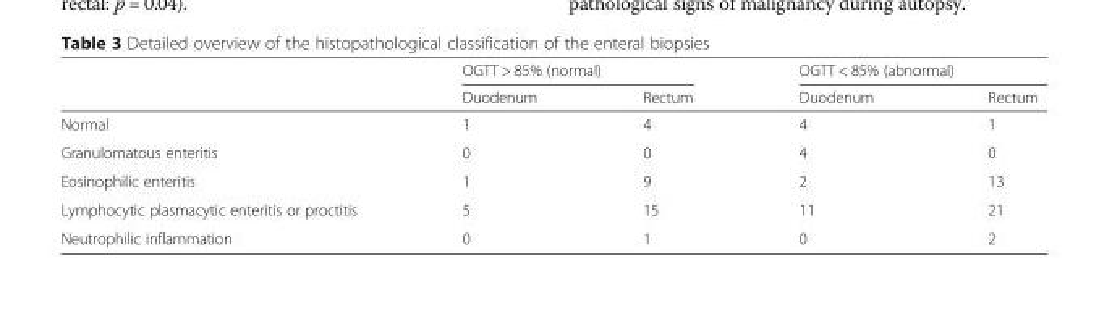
<table><thead><tr><td rowspan="2"></td><td colspan="2">OGTT &gt; 85% (normal)</td><td colspan="2">OGTT &lt; 85% (abnormal)</td></tr><tr><td>Duodenum</td><td>Rectum</td><td>Duodenum</td><td>Rectum</td></tr></thead><tbody><tr><td>Normal</td><td>1</td><td>4</td><td>4</td><td>1</td></tr><tr><td>Granulomatous enteritis</td><td>0</td><td>0</td><td>4</td><td>0</td></tr><tr><td>Eosinophilic enteritis</td><td>1</td><td>9</td><td>2</td><td>13</td></tr><tr><td>Lymphocytic plasmacytic enteritis or proctitis</td><td>5</td><td>15</td><td>11</td><td>21</td></tr><tr><td>Neutrophilic inflammation</td><td>0</td><td>1</td><td>0</td><td>2</td></tr></tbody></table>